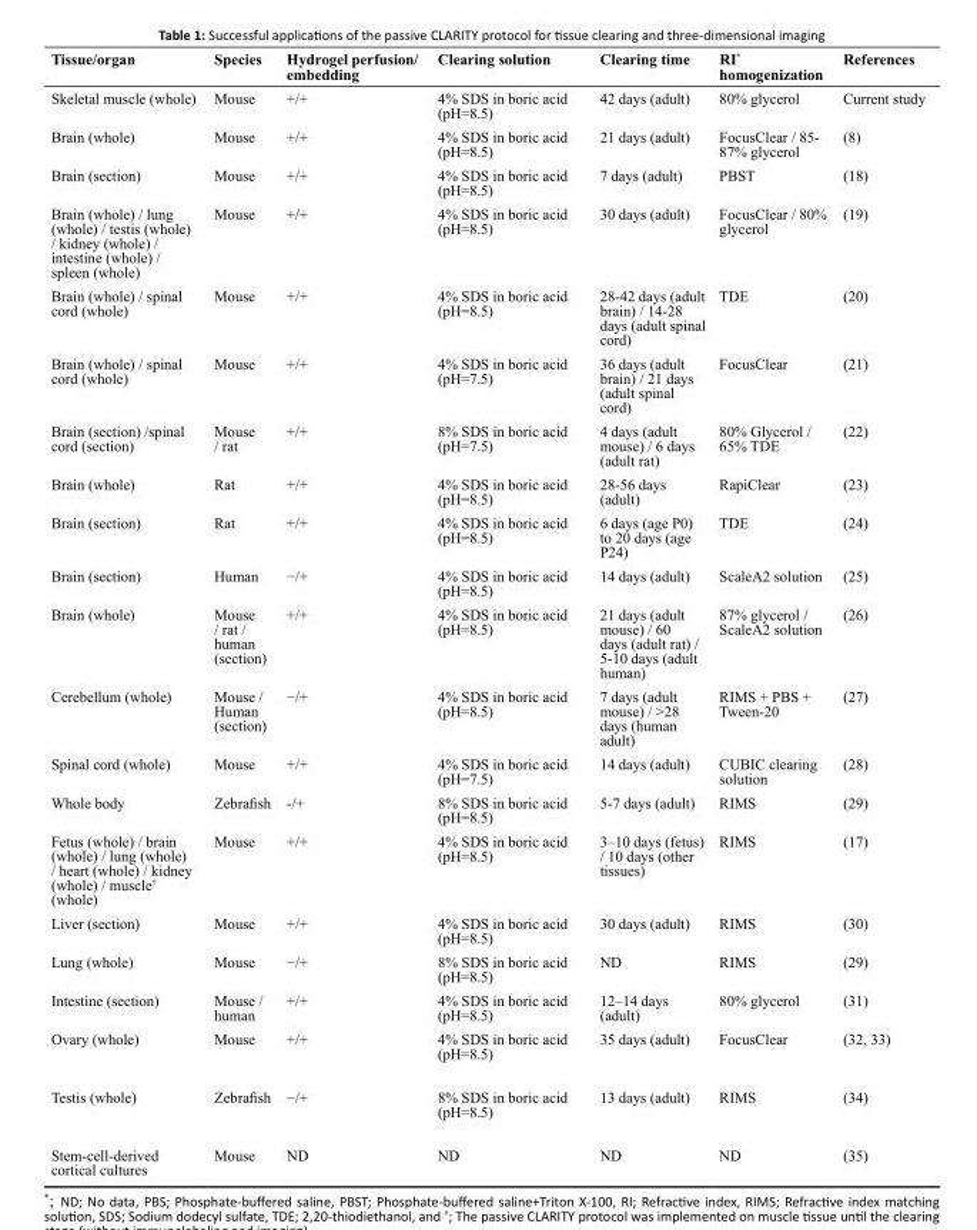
<table><thead><tr><td>Tissue/organ</td><td>Species</td><td>Hydrogel perfusion/ embedding</td><td>Clearing solution</td><td>Clearing time</td><td>RI* homogenization</td><td>References</td></tr></thead><tbody><tr><td>Skeletal muscle (whole)</td><td>Mouse</td><td>+/+</td><td>4% SDS in boric acid (pH=8.5)</td><td>42 days (adult)</td><td>80% glycerol</td><td>Current study</td></tr><tr><td>Brain (whole)</td><td>Mouse</td><td>+/+</td><td>4% SDS in boric acid (pH=8.5)</td><td>21 days (adult)</td><td>FocusClear / 85- 87% glycerol</td><td>(8)</td></tr><tr><td>Brain (section)</td><td>Mouse</td><td>+/+</td><td>4% SDS in boric acid (pH=8.5)</td><td>7 days (adult)</td><td>PBST</td><td>(18)</td></tr><tr><td>Brain (whole) / lung (whole) / testis (whole) / kidney (whole) / intestine (whole) / spleen (whole)</td><td>Mouse</td><td>+/+</td><td>4% SDS in boric acid (pH=8.5)</td><td>30 days (adult)</td><td>FocusClear / 80% glycerol</td><td>(19)</td></tr><tr><td>Brain (whole) / spinal cord (whole)</td><td>Mouse</td><td>+/+</td><td>4% SDS in boric acid (pH=8.5)</td><td>28-42 days (adult brain) / 14-28 days (adult spinal cord)</td><td>TDE</td><td>(20)</td></tr><tr><td>Brain (whole) / spinal cord (whole)</td><td>Mouse</td><td>+/+</td><td>4% SDS in boric acid (pH=7.5)</td><td>36 days (adult brain) / 21 days (adult spinal cord)</td><td>FocusClear</td><td>(21)</td></tr><tr><td>Brain (section) /spinal cord (section)</td><td>Mouse / rat</td><td>+/+</td><td>8% SDS in boric acid (pH=7.5)</td><td>4 days (adult mouse) / 6 days (adult rat)</td><td>80% Glycerol / 65% TDE</td><td>(22)</td></tr><tr><td>Brain (whole)</td><td>Rat</td><td>+/+</td><td>4% SDS in boric acid (pH=8.5)</td><td>28-56 days (adult)</td><td>RapiClear</td><td>(23)</td></tr><tr><td>Brain (section)</td><td>Rat</td><td>+/+</td><td>4% SDS in boric acid (pH=8.5)</td><td>6 days (age P0) to 20 days (age P24)</td><td>TDE</td><td>(24)</td></tr><tr><td>Brain (section)</td><td>Human</td><td>−/+</td><td>4% SDS in boric acid (pH=8.5)</td><td>14 days (adult)</td><td>ScaleA2 solution</td><td>(25)</td></tr><tr><td>Brain (whole)</td><td>Mouse / rat / human (section)</td><td>+/+</td><td>4% SDS in boric acid (pH=8.5)</td><td>21 days (adult mouse) / 60 days (adult rat) / 5-10 days (adult human)</td><td>87% glycerol / ScaleA2 solution</td><td>(26)</td></tr><tr><td>Cerebellum (whole)</td><td>Mouse / Human (section)</td><td>−/+</td><td>4% SDS in boric acid (pH=8.5)</td><td>7 days (adult mouse) / &gt;28 days (human adult)</td><td>RIMS + PBS + Tween-20</td><td>(27)</td></tr><tr><td>Spinal cord (whole)</td><td>Mouse</td><td>+/+</td><td>4% SDS in boric acid (pH=7.5)</td><td>14 days (adult)</td><td>CUBIC clearing solution</td><td>(28)</td></tr><tr><td>Whole body</td><td>Zebrafish</td><td>-/+</td><td>8% SDS in boric acid (pH=8.5)</td><td>5-7 days (adult)</td><td>RIMS</td><td>(29)</td></tr><tr><td>Fetus (whole) / brain (whole) / lung (whole) / heart (whole) / kidney (whole) / muscle<sup>†</sup> (whole)</td><td>Mouse</td><td>+/+</td><td>4% SDS in boric acid (pH=8.5)</td><td>3–10 days (fetus) / 10 days (other tissues)</td><td>RIMS</td><td>(17)</td></tr><tr><td>Liver (section)</td><td>Mouse</td><td>+/+</td><td>4% SDS in boric acid (pH=8.5)</td><td>30 days (adult)</td><td>RIMS</td><td>(30)</td></tr><tr><td>Lung (whole)</td><td>Mouse</td><td>−/+</td><td>8% SDS in boric acid (pH=8.5)</td><td>ND</td><td>RIMS</td><td>(29)</td></tr><tr><td>Intestine (section)</td><td>Mouse / human</td><td>+/+</td><td>4% SDS in boric acid (pH=8.5)</td><td>12–14 days (adult)</td><td>80% glycerol</td><td>(31)</td></tr><tr><td>Ovary (whole)</td><td>Mouse</td><td>+/+</td><td>4% SDS in boric acid (pH=8.5)</td><td>35 days (adult)</td><td>FocusClear</td><td>(32, 33)</td></tr><tr><td>Testis (whole)</td><td>Zebrafish</td><td>−/+</td><td>8% SDS in boric acid (pH=8.5)</td><td>13 days (adult)</td><td>RIMS</td><td>(34)</td></tr><tr><td>Stem-cell-derived cortical cultures</td><td>Mouse</td><td>ND</td><td>ND</td><td>ND</td><td>ND</td><td>(35)</td></tr></tbody></table>